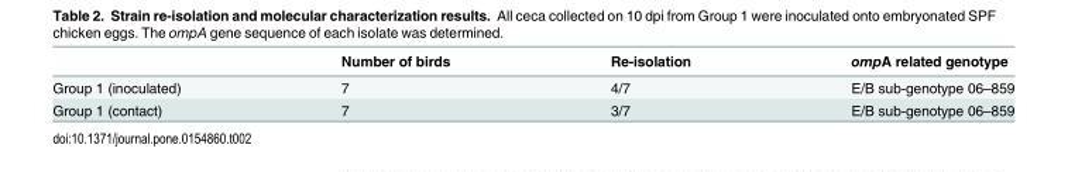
<table><thead><tr><td></td><td>Number of birds</td><td>Re-isolation</td><td>ompA related genotype</td></tr></thead><tbody><tr><td>Group 1 (inoculated)</td><td>7</td><td>4/7</td><td>E/B sub-genotype 06–859</td></tr><tr><td>Group 1 (contact)</td><td>7</td><td>3/7</td><td>E/B sub-genotype 06–859</td></tr></tbody></table>